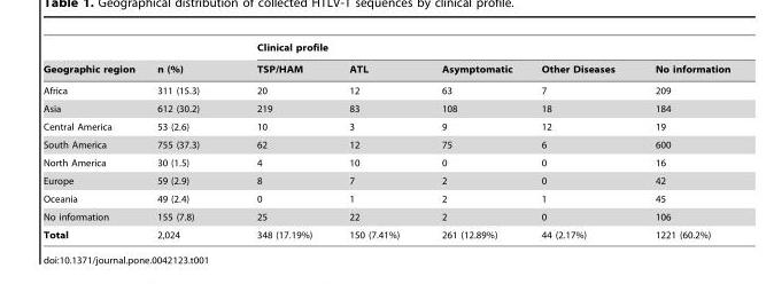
<table><thead><tr><td rowspan="2">Geographic region</td><td rowspan="2">n (%)</td><td colspan="5">Clinical profile</td></tr><tr><td>TSP/HAM</td><td>ATL</td><td>Asymptomatic</td><td>Other Diseases</td><td>No information</td></tr></thead><tbody><tr><td>Africa</td><td>311 (15.3)</td><td>20</td><td>12</td><td>63</td><td>7</td><td>209</td></tr><tr><td>Asia</td><td>612 (30.2)</td><td>219</td><td>83</td><td>108</td><td>18</td><td>184</td></tr><tr><td>Central America</td><td>53 (2.6)</td><td>10</td><td>3</td><td>9</td><td>12</td><td>19</td></tr><tr><td>South America</td><td>755 (37.3)</td><td>62</td><td>12</td><td>75</td><td>6</td><td>600</td></tr><tr><td>North America</td><td>30 (1.5)</td><td>4</td><td>10</td><td>0</td><td>0</td><td>16</td></tr><tr><td>Europe</td><td>59 (2.9)</td><td>8</td><td>7</td><td>2</td><td>0</td><td>42</td></tr><tr><td>Oceania</td><td>49 (2.4)</td><td>0</td><td>1</td><td>2</td><td>1</td><td>45</td></tr><tr><td>No information</td><td>155 (7.8)</td><td>25</td><td>22</td><td>2</td><td>0</td><td>106</td></tr><tr><td>Total</td><td>2,024</td><td>348 (17.19%)</td><td>150 (7.41%)</td><td>261 (12.89%)</td><td>44 (2.17%)</td><td>1221 (60.2%)</td></tr></tbody></table>